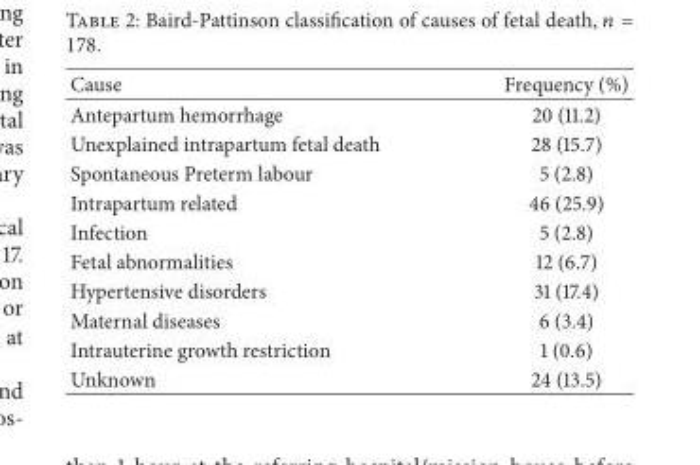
<table><thead><tr><td>Cause</td><td>Frequency (%)</td></tr></thead><tbody><tr><td>Antepartum hemorrhage</td><td>20 (11.2)</td></tr><tr><td>Unexplained intrapartum fetal death</td><td>28 (15.7)</td></tr><tr><td>Spontaneous Preterm labour</td><td>5 (2.8)</td></tr><tr><td>Intrapartum related</td><td>46 (25.9)</td></tr><tr><td>Infection</td><td>5 (2.8)</td></tr><tr><td>Fetal abnormalities</td><td>12 (6.7)</td></tr><tr><td>Hypertensive disorders</td><td>31 (17.4)</td></tr><tr><td>Maternal diseases</td><td>6 (3.4)</td></tr><tr><td>Intrauterine growth restriction</td><td>1 (0.6)</td></tr><tr><td>Unknown</td><td>24 (13.5)</td></tr></tbody></table>